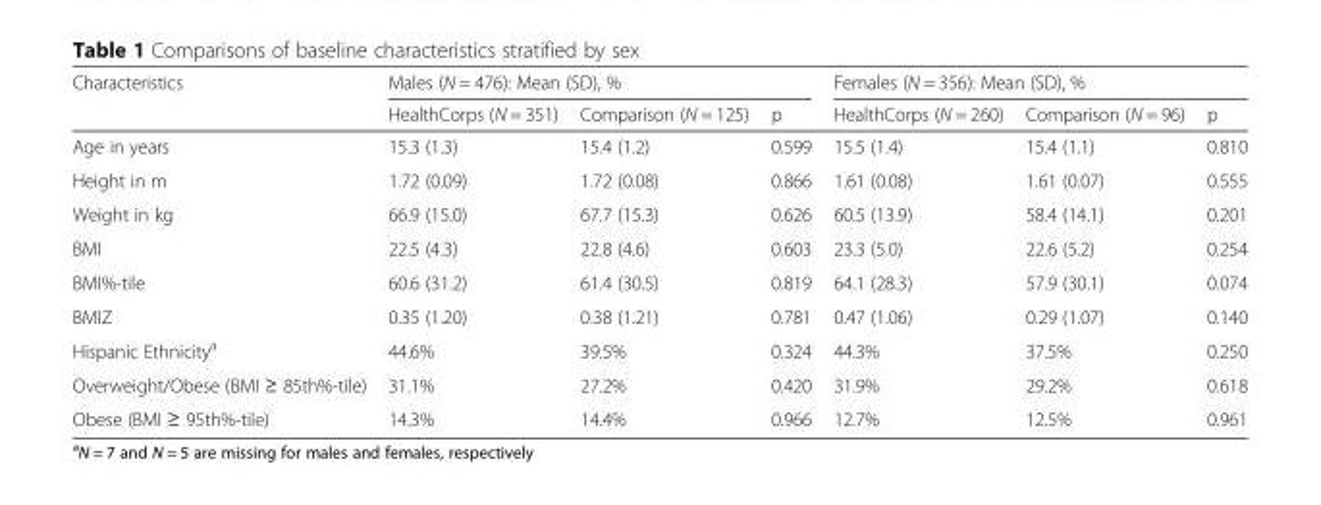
<table><thead><tr><td rowspan="2">Characteristics</td><td colspan="3">Males (N = 476): Mean (SD), %</td><td colspan="3">Females (N = 356): Mean (SD), %</td></tr><tr><td>HealthCorps (N = 351)</td><td>Comparison (N = 125)</td><td>p</td><td>HealthCorps (N = 260)</td><td>Comparison (N = 96)</td><td>p</td></tr></thead><tbody><tr><td>Age in years</td><td>15.3 (1.3)</td><td>15.4 (1.2)</td><td>0.599</td><td>15.5 (1.4)</td><td>15.4 (1.1)</td><td>0.810</td></tr><tr><td>Height in m</td><td>1.72 (0.09)</td><td>1.72 (0.08)</td><td>0.866</td><td>1.61 (0.08)</td><td>1.61 (0.07)</td><td>0.555</td></tr><tr><td>Weight in kg</td><td>66.9 (15.0)</td><td>67.7 (15.3)</td><td>0.626</td><td>60.5 (13.9)</td><td>58.4 (14.1)</td><td>0.201</td></tr><tr><td>BMI</td><td>22.5 (4.3)</td><td>22.8 (4.6)</td><td>0.603</td><td>23.3 (5.0)</td><td>22.6 (5.2)</td><td>0.254</td></tr><tr><td>BMI%-tile</td><td>60.6 (31.2)</td><td>61.4 (30.5)</td><td>0.819</td><td>64.1 (28.3)</td><td>57.9 (30.1)</td><td>0.074</td></tr><tr><td>BMIZ</td><td>0.35 (1.20)</td><td>0.38 (1.21)</td><td>0.781</td><td>0.47 (1.06)</td><td>0.29 (1.07)</td><td>0.140</td></tr><tr><td>Hispanic Ethnicity<sup>a</sup></td><td>44.6%</td><td>39.5%</td><td>0.324</td><td>44.3%</td><td>37.5%</td><td>0.250</td></tr><tr><td>Overweight/Obese (BMI ≥ 85th%-tile)</td><td>31.1%</td><td>27.2%</td><td>0.420</td><td>31.9%</td><td>29.2%</td><td>0.618</td></tr><tr><td>Obese (BMI ≥ 95th%-tile)</td><td>14.3%</td><td>14.4%</td><td>0.966</td><td>12.7%</td><td>12.5%</td><td>0.961</td></tr></tbody></table>